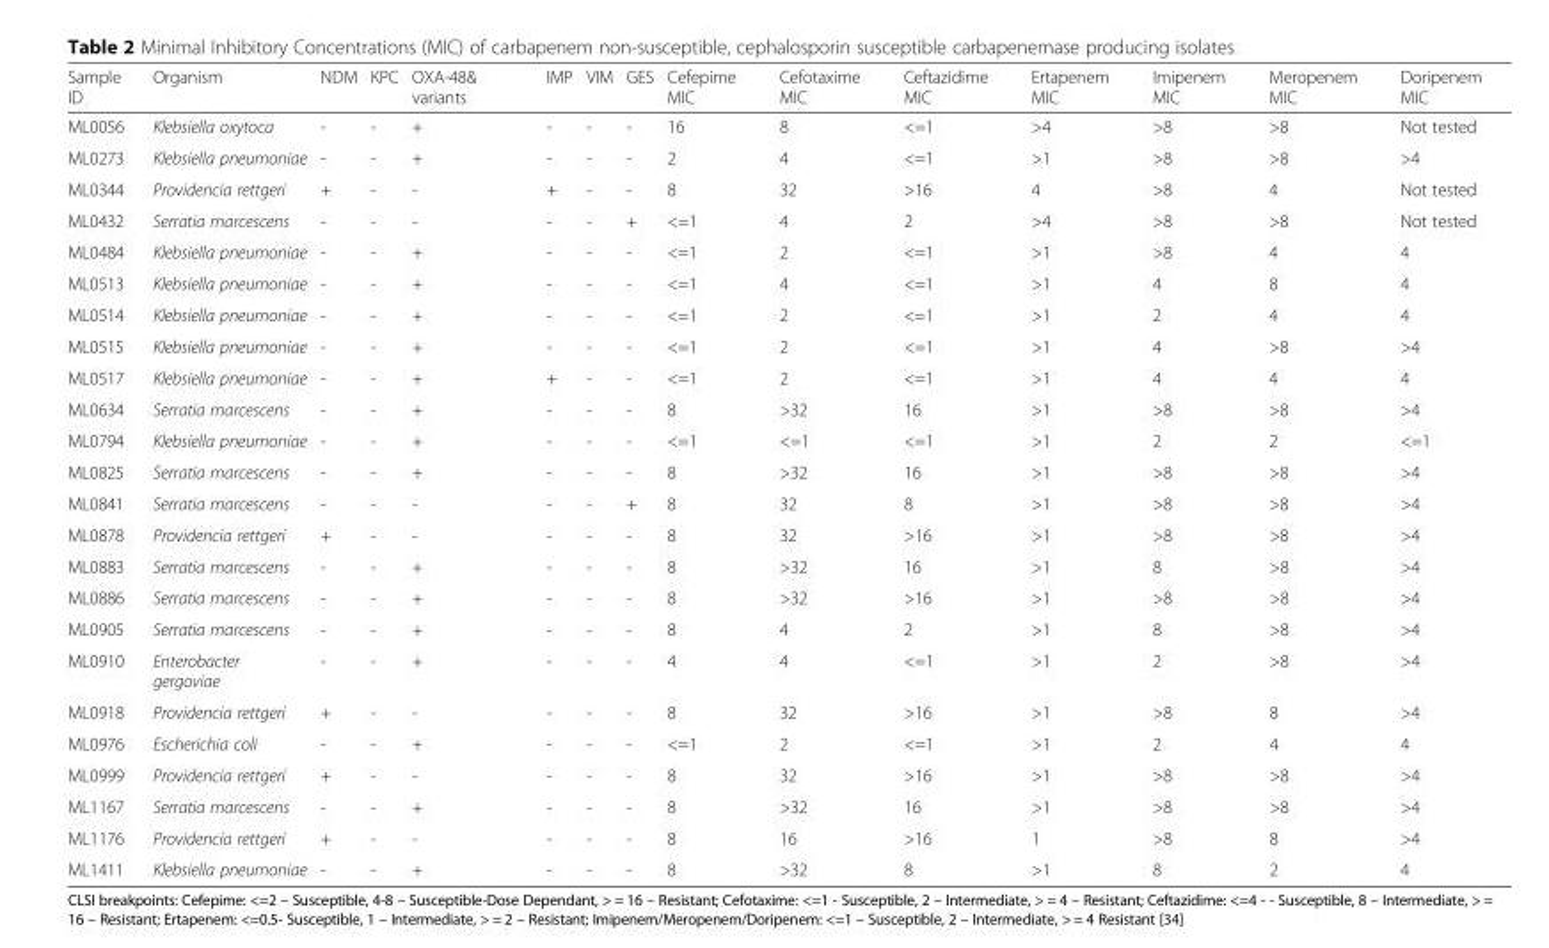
<table><thead><tr><td>Sample ID</td><td>Organism</td><td>NDM</td><td>KPC</td><td>OXA-48&amp; variants</td><td>IMP</td><td>VIM</td><td>GES</td><td>Cefepime MIC</td><td>Cefotaxime MIC</td><td>Ceftazidime MIC</td><td>Ertapenem MIC</td><td>Imipenem MIC</td><td>Meropenem MIC</td><td>Doripenem MIC</td></tr></thead><tbody><tr><td>ML0056</td><td>Klebsiella oxytoca</td><td>-</td><td>-</td><td>+</td><td>-</td><td>-</td><td>-</td><td>16</td><td>8</td><td>&lt;=1</td><td>&gt;4</td><td>&gt;8</td><td>&gt;8</td><td>Not tested</td></tr><tr><td>ML0273</td><td>Klebsiella pneumoniae</td><td>-</td><td>-</td><td>+</td><td>-</td><td>-</td><td>-</td><td>2</td><td>4</td><td>&lt;=1</td><td>&gt;1</td><td>&gt;8</td><td>&gt;8</td><td>&gt;4</td></tr><tr><td>ML0344</td><td>Providencia rettgeri</td><td>+</td><td>-</td><td>-</td><td>+</td><td>-</td><td>-</td><td>8</td><td>32</td><td>&gt;16</td><td>4</td><td>&gt;8</td><td>4</td><td>Not tested</td></tr><tr><td>ML0432</td><td>Serratia marcescens</td><td>-</td><td>-</td><td>-</td><td>-</td><td>-</td><td>+</td><td>&lt;=1</td><td>4</td><td>2</td><td>&gt;4</td><td>&gt;8</td><td>&gt;8</td><td>Not tested</td></tr><tr><td>ML0484</td><td>Klebsiella pneumoniae</td><td>-</td><td>-</td><td>+</td><td>-</td><td>-</td><td>-</td><td>&lt;=1</td><td>2</td><td>&lt;=1</td><td>&gt;1</td><td>&gt;8</td><td>4</td><td>4</td></tr><tr><td>ML0513</td><td>Klebsiella pneumoniae</td><td>-</td><td>-</td><td>+</td><td>-</td><td>-</td><td>-</td><td>&lt;=1</td><td>4</td><td>&lt;=1</td><td>&gt;1</td><td>4</td><td>8</td><td>4</td></tr><tr><td>ML0514</td><td>Klebsiella pneumoniae</td><td>-</td><td>-</td><td>+</td><td>-</td><td>-</td><td>-</td><td>&lt;=1</td><td>2</td><td>&lt;=1</td><td>&gt;1</td><td>2</td><td>4</td><td>4</td></tr><tr><td>ML0515</td><td>Klebsiella pneumoniae</td><td>-</td><td>-</td><td>+</td><td>-</td><td>-</td><td>-</td><td>&lt;=1</td><td>2</td><td>&lt;=1</td><td>&gt;1</td><td>4</td><td>&gt;8</td><td>&gt;4</td></tr><tr><td>ML0517</td><td>Klebsiella pneumoniae</td><td>-</td><td>-</td><td>+</td><td>+</td><td>-</td><td>-</td><td>&lt;=1</td><td>2</td><td>&lt;=1</td><td>&gt;1</td><td>4</td><td>4</td><td>4</td></tr><tr><td>ML0634</td><td>Serratia marcescens</td><td>-</td><td>-</td><td>+</td><td>-</td><td>-</td><td>-</td><td>8</td><td>&gt;32</td><td>16</td><td>&gt;1</td><td>&gt;8</td><td>&gt;8</td><td>&gt;4</td></tr><tr><td>ML0794</td><td>Klebsiella pneumoniae</td><td>-</td><td>-</td><td>+</td><td>-</td><td>-</td><td>-</td><td>&lt;=1</td><td>&lt;=1</td><td>&lt;=1</td><td>&gt;1</td><td>2</td><td>2</td><td>&lt;=1</td></tr><tr><td>ML0825</td><td>Serratia marcescens</td><td>-</td><td>-</td><td>+</td><td>-</td><td>-</td><td>-</td><td>8</td><td>&gt;32</td><td>16</td><td>&gt;1</td><td>&gt;8</td><td>&gt;8</td><td>&gt;4</td></tr><tr><td>ML0841</td><td>Serratia marcescens</td><td>-</td><td>-</td><td>-</td><td>-</td><td>-</td><td>+</td><td>8</td><td>32</td><td>8</td><td>&gt;1</td><td>&gt;8</td><td>&gt;8</td><td>&gt;4</td></tr><tr><td>ML0878</td><td>Providencia rettgeri</td><td>+</td><td>-</td><td>-</td><td>-</td><td>-</td><td>-</td><td>8</td><td>32</td><td>&gt;16</td><td>&gt;1</td><td>&gt;8</td><td>&gt;8</td><td>&gt;4</td></tr><tr><td>ML0883</td><td>Serratia marcescens</td><td>-</td><td>-</td><td>+</td><td>-</td><td>-</td><td>-</td><td>8</td><td>&gt;32</td><td>16</td><td>&gt;1</td><td>8</td><td>&gt;8</td><td>&gt;4</td></tr><tr><td>ML0886</td><td>Serratia marcescens</td><td>-</td><td>-</td><td>+</td><td>-</td><td>-</td><td>-</td><td>8</td><td>&gt;32</td><td>&gt;16</td><td>&gt;1</td><td>&gt;8</td><td>&gt;8</td><td>&gt;4</td></tr><tr><td>ML0905</td><td>Serratia marcescens</td><td>-</td><td>-</td><td>+</td><td>-</td><td>-</td><td>-</td><td>8</td><td>4</td><td>2</td><td>&gt;1</td><td>8</td><td>&gt;8</td><td>&gt;4</td></tr><tr><td>ML0910</td><td>Enterobacter gergoviae</td><td>-</td><td>-</td><td>+</td><td>-</td><td>-</td><td>-</td><td>4</td><td>4</td><td>&lt;=1</td><td>&gt;1</td><td>2</td><td>&gt;8</td><td>&gt;4</td></tr><tr><td>ML0918</td><td>Providencia rettgeri</td><td>+</td><td>-</td><td>-</td><td>-</td><td>-</td><td>-</td><td>8</td><td>32</td><td>&gt;16</td><td>&gt;1</td><td>&gt;8</td><td>8</td><td>&gt;4</td></tr><tr><td>ML0976</td><td>Escherichia coli</td><td>-</td><td>-</td><td>+</td><td>-</td><td>-</td><td>-</td><td>&lt;=1</td><td>2</td><td>&lt;=1</td><td>&gt;1</td><td>2</td><td>4</td><td>4</td></tr><tr><td>ML0999</td><td>Providencia rettgeri</td><td>+</td><td>-</td><td>-</td><td>-</td><td>-</td><td>-</td><td>8</td><td>32</td><td>&gt;16</td><td>&gt;1</td><td>&gt;8</td><td>&gt;8</td><td>&gt;4</td></tr><tr><td>ML1167</td><td>Serratia marcescens</td><td>-</td><td>-</td><td>+</td><td>-</td><td>-</td><td>-</td><td>8</td><td>&gt;32</td><td>16</td><td>&gt;1</td><td>&gt;8</td><td>&gt;8</td><td>&gt;4</td></tr><tr><td>ML1176</td><td>Providencia rettgeri</td><td>+</td><td>-</td><td>-</td><td>-</td><td>-</td><td>-</td><td>8</td><td>16</td><td>&gt;16</td><td>1</td><td>&gt;8</td><td>8</td><td>&gt;4</td></tr><tr><td>ML1411</td><td>Klebsiella pneumoniae</td><td>-</td><td>-</td><td>+</td><td>-</td><td>-</td><td>-</td><td>8</td><td>&gt;32</td><td>8</td><td>&gt;1</td><td>8</td><td>2</td><td>4</td></tr></tbody></table>